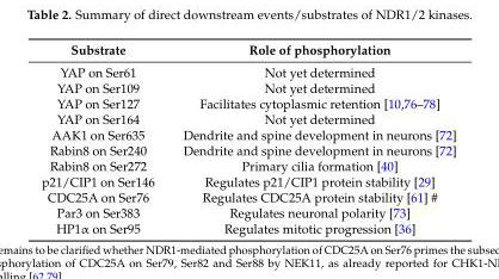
<table><thead><tr><td>Substrate</td><td>Role of phosphorylation</td></tr></thead><tbody><tr><td>YAP on Ser61</td><td>Not yet determined</td></tr><tr><td>YAP on Ser109</td><td>Not yet determined</td></tr><tr><td>YAP on Ser127</td><td>Facilitates cytoplasmic retention [10,76–78]</td></tr><tr><td>YAP on Ser164</td><td>Not yet determined</td></tr><tr><td>AAK1 on Ser635</td><td>Dendrite and spine development in neurons [72]</td></tr><tr><td>Rabin8 on Ser240</td><td>Dendrite and spine development in neurons [72]</td></tr><tr><td>Rabin8 on Ser272</td><td>Primary cilia formation [40]</td></tr><tr><td>p21/CIP1 on Ser146</td><td>Regulates p21/CIP1 protein stability [29]</td></tr><tr><td>CDC25A on Ser76</td><td>Regulates CDC25A protein stability [61] #</td></tr><tr><td>Par3 on Ser383</td><td>Regulates neuronal polarity [73]</td></tr><tr><td>HP1α on Ser95</td><td>Regulates mitotic progression [36]</td></tr></tbody></table>